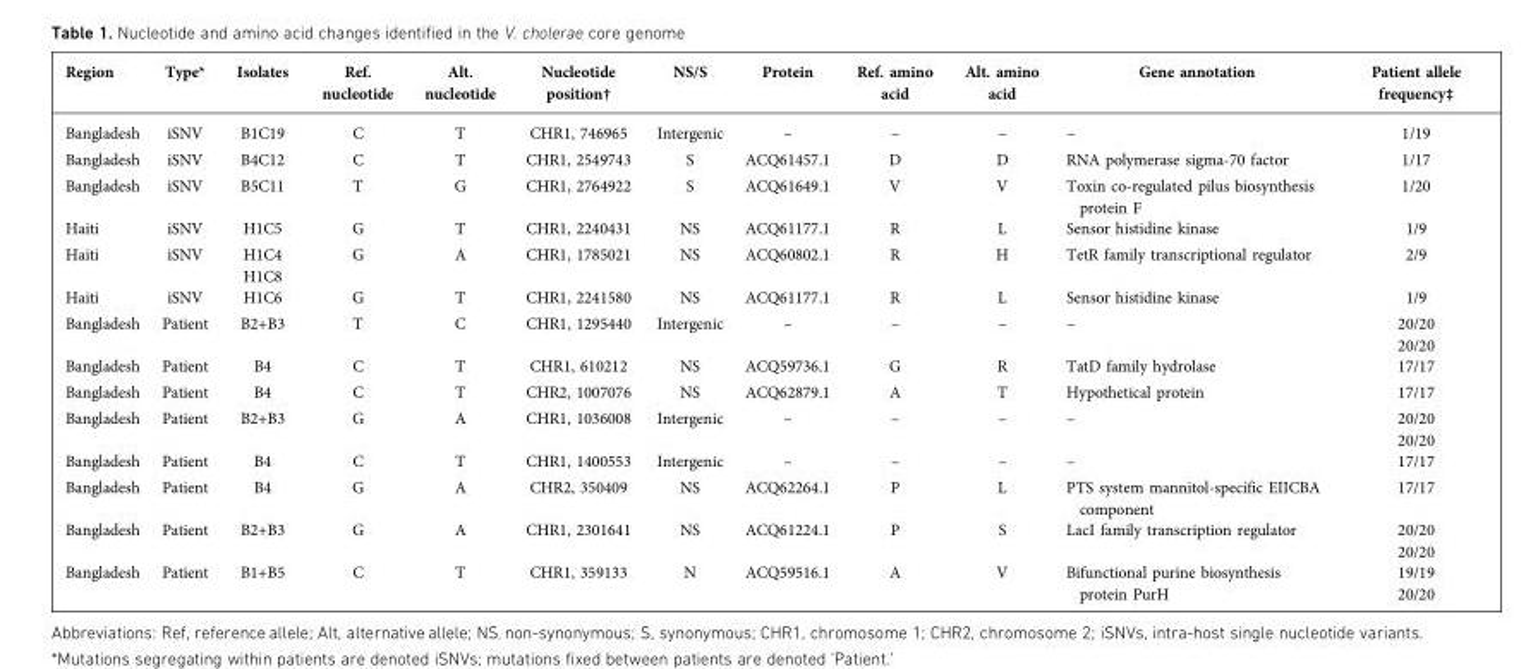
<table><thead><tr><td>Region</td><td>Type*</td><td>Isolates</td><td>Ref. nucleotide</td><td>Alt. nucleotide</td><td>Nucleotide position†</td><td>NS/S</td><td>Protein</td><td>Ref. amino acid</td><td>Alt. amino acid</td><td>Gene annotation</td><td>Patient allele frequency‡</td></tr></thead><tbody><tr><td>Bangladesh</td><td>iSNV</td><td>B1C19</td><td>C</td><td>T</td><td>CHR1, 746965</td><td>Intergenic</td><td>–</td><td>–</td><td>–</td><td>–</td><td>1/19</td></tr><tr><td>Bangladesh</td><td>iSNV</td><td>B4C12</td><td>C</td><td>T</td><td>CHR1, 2549743</td><td>S</td><td>ACQ61457.1</td><td>D</td><td>D</td><td>RNA polymerase sigma-70 factor</td><td>1/17</td></tr><tr><td>Bangladesh</td><td>iSNV</td><td>B5C11</td><td>T</td><td>G</td><td>CHR1, 2764922</td><td>S</td><td>ACQ61649.1</td><td>V</td><td>V</td><td>Toxin co-regulated pilus biosynthesis protein F</td><td>1/20</td></tr><tr><td>Haiti</td><td>iSNV</td><td>H1C5</td><td>G</td><td>T</td><td>CHR1, 2240431</td><td>NS</td><td>ACQ61177.1</td><td>R</td><td>L</td><td>Sensor histidine kinase</td><td>1/9</td></tr><tr><td>Haiti</td><td>iSNV</td><td>H1C4 H1C8</td><td>G</td><td>A</td><td>CHR1, 1785021</td><td>NS</td><td>ACQ60802.1</td><td>R</td><td>H</td><td>TetR family transcriptional regulator</td><td>2/9</td></tr><tr><td>Haiti</td><td>iSNV</td><td>H1C6</td><td>G</td><td>T</td><td>CHR1, 2241580</td><td>NS</td><td>ACQ61177.1</td><td>R</td><td>L</td><td>Sensor histidine kinase</td><td>1/9</td></tr><tr><td>Bangladesh</td><td>Patient</td><td>B2+B3</td><td>T</td><td>C</td><td>CHR1, 1295440</td><td>Intergenic</td><td>–</td><td>–</td><td>–</td><td>–</td><td>20/20 20/20</td></tr><tr><td>Bangladesh</td><td>Patient</td><td>B4</td><td>C</td><td>T</td><td>CHR1, 610212</td><td>NS</td><td>ACQ59736.1</td><td>G</td><td>R</td><td>TatD family hydrolase</td><td>17/17</td></tr><tr><td>Bangladesh</td><td>Patient</td><td>B4</td><td>C</td><td>T</td><td>CHR2, 1007076</td><td>NS</td><td>ACQ62879.1</td><td>A</td><td>T</td><td>Hypothetical protein</td><td>17/17</td></tr><tr><td>Bangladesh</td><td>Patient</td><td>B2+B3</td><td>G</td><td>A</td><td>CHR1, 1036008</td><td>Intergenic</td><td>–</td><td>–</td><td>–</td><td>–</td><td>20/20 20/20</td></tr><tr><td>Bangladesh</td><td>Patient</td><td>B4</td><td>C</td><td>T</td><td>CHR1, 1400553</td><td>Intergenic</td><td>–</td><td>–</td><td>–</td><td>–</td><td>17/17</td></tr><tr><td>Bangladesh</td><td>Patient</td><td>B4</td><td>G</td><td>A</td><td>CHR2, 350409</td><td>NS</td><td>ACQ62264.1</td><td>P</td><td>L</td><td>PTS system mannitol-specific EIICBA component</td><td>17/17</td></tr><tr><td>Bangladesh</td><td>Patient</td><td>B2+B3</td><td>G</td><td>A</td><td>CHR1, 2301641</td><td>NS</td><td>ACQ61224.1</td><td>P</td><td>S</td><td>LacI family transcription regulator</td><td>20/20 20/20</td></tr><tr><td>Bangladesh</td><td>Patient</td><td>B1+B5</td><td>C</td><td>T</td><td>CHR1, 359133</td><td>N</td><td>ACQ59516.1</td><td>A</td><td>V</td><td>Bifunctional purine biosynthesis protein PurH</td><td>19/19 20/20</td></tr></tbody></table>